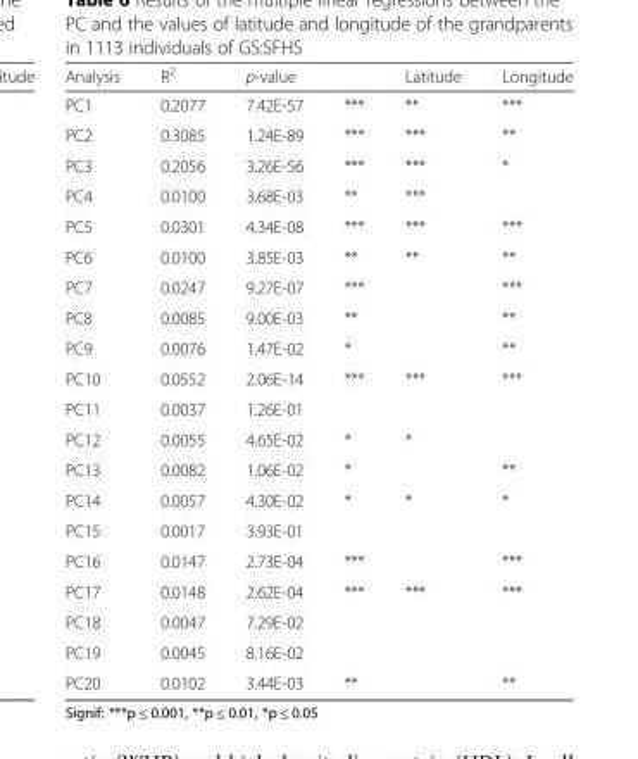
<table><thead><tr><td rowspan="2">Analysis PC1</td><td rowspan="2">R<sup>2</sup> 0.2077</td><td colspan="2">p-value</td><td rowspan="2">Latitude **</td><td rowspan="2">Longitude ***</td></tr><tr><td>7.42E-57</td><td>***</td></tr></thead><tbody><tr><td>PC2</td><td>0.3085</td><td>1.24E-89</td><td>***</td><td>***</td><td>**</td></tr><tr><td>PC3</td><td>0.2056</td><td>3.26E-56</td><td>***</td><td>***</td><td>*</td></tr><tr><td>PC4</td><td>0.0100</td><td>3.68E-03</td><td>**</td><td>***</td><td></td></tr><tr><td>PC5</td><td>0.0301</td><td>4.34E-08</td><td>***</td><td>***</td><td>***</td></tr><tr><td>PC6</td><td>0.0100</td><td>3.85E-03</td><td>**</td><td>**</td><td>**</td></tr><tr><td>PC7</td><td>0.0247</td><td>9.27E-07</td><td>***</td><td></td><td>***</td></tr><tr><td>PC8</td><td>0.0085</td><td>9.00E-03</td><td>**</td><td></td><td>**</td></tr><tr><td>PC9</td><td>0.0076</td><td>1.47E-02</td><td>*</td><td></td><td>**</td></tr><tr><td>PC10</td><td>0.0552</td><td>2.06E-14</td><td>***</td><td>***</td><td>***</td></tr><tr><td>PC11</td><td>0.0037</td><td>1.26E-01</td><td></td><td></td><td></td></tr><tr><td>PC12</td><td>0.0055</td><td>4.65E-02</td><td>*</td><td>*</td><td></td></tr><tr><td>PC13</td><td>0.0082</td><td>1.06E-02</td><td>*</td><td></td><td>**</td></tr><tr><td>PC14</td><td>0.0057</td><td>4.30E-02</td><td>*</td><td>*</td><td>*</td></tr><tr><td>PC15</td><td>0.0017</td><td>3.93E-01</td><td></td><td></td><td></td></tr><tr><td>PC16</td><td>0.0147</td><td>2.73E-04</td><td>***</td><td></td><td>***</td></tr><tr><td>PC17</td><td>0.0148</td><td>2.62E-04</td><td>***</td><td>***</td><td>***</td></tr><tr><td>PC18</td><td>0.0047</td><td>7.29E-02</td><td></td><td></td><td></td></tr><tr><td>PC19</td><td>0.0045</td><td>8.16E-02</td><td></td><td></td><td></td></tr><tr><td>PC20</td><td>0.0102</td><td>3.44E-03</td><td>**</td><td></td><td>**</td></tr></tbody></table>